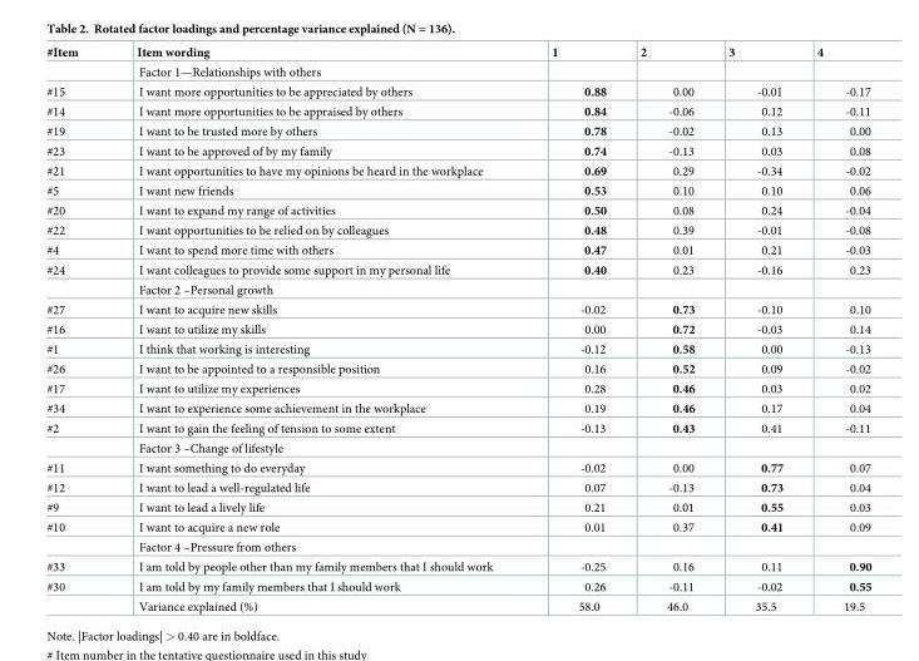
<table><thead><tr><td>#Item</td><td>Item wording</td><td>1</td><td>2</td><td>3</td><td>4</td></tr></thead><tbody><tr><td></td><td>Factor 1—Relationships with others</td><td></td><td></td><td></td><td></td></tr><tr><td>#15</td><td>I want more opportunities to be appreciated by others</td><td>0.88</td><td>0.00</td><td>-0.01</td><td>-0.17</td></tr><tr><td>#14</td><td>I want more opportunities to be appraised by others</td><td>0.84</td><td>-0.06</td><td>0.12</td><td>-0.11</td></tr><tr><td>#19</td><td>I want to be trusted more by others</td><td>0.78</td><td>-0.02</td><td>0.13</td><td>0.00</td></tr><tr><td>#23</td><td>I want to be approved of by my family</td><td>0.74</td><td>-0.13</td><td>0.03</td><td>0.08</td></tr><tr><td>#21</td><td>I want opportunities to have my opinions be heard in the workplace</td><td>0.69</td><td>0.29</td><td>-0.34</td><td>-0.02</td></tr><tr><td>#5</td><td>I want new friends</td><td>0.53</td><td>0.10</td><td>0.10</td><td>0.06</td></tr><tr><td>#20</td><td>I want to expand my range of activities</td><td>0.50</td><td>0.08</td><td>0.24</td><td>-0.04</td></tr><tr><td>#22</td><td>I want opportunities to be relied on by colleagues</td><td>0.48</td><td>0.39</td><td>-0.01</td><td>-0.08</td></tr><tr><td>#4</td><td>I want to spend more time with others</td><td>0.47</td><td>0.01</td><td>0.21</td><td>-0.03</td></tr><tr><td rowspan="2">#24</td><td>I want colleagues to provide some support in my personal life</td><td>0.40</td><td>0.23</td><td>-0.16</td><td>0.23</td></tr><tr><td>Factor 2 –Personal growth</td><td></td><td></td><td></td><td></td></tr><tr><td>#27</td><td>I want to acquire new skills</td><td>-0.02</td><td>0.73</td><td>-0.10</td><td>0.10</td></tr><tr><td>#16</td><td>I want to utilize my skills</td><td>0.00</td><td>0.72</td><td>-0.03</td><td>0.14</td></tr><tr><td>#1</td><td>I think that working is interesting</td><td>-0.12</td><td>0.58</td><td>0.00</td><td>-0.13</td></tr><tr><td>#26</td><td>I want to be appointed to a responsible position</td><td>0.16</td><td>0.52</td><td>0.09</td><td>-0.02</td></tr><tr><td>#17</td><td>I want to utilize my experiences</td><td>0.28</td><td>0.46</td><td>0.03</td><td>0.02</td></tr><tr><td>#34</td><td>I want to experience some achievement in the workplace</td><td>0.19</td><td>0.46</td><td>0.17</td><td>0.04</td></tr><tr><td rowspan="2">#2</td><td>I want to gain the feeling of tension to some extent</td><td>-0.13</td><td>0.43</td><td>0.41</td><td>-0.11</td></tr><tr><td>Factor 3 –Change of lifestyle</td><td></td><td></td><td></td><td></td></tr><tr><td>#11</td><td>I want something to do everyday</td><td>-0.02</td><td>0.00</td><td>0.77</td><td>0.07</td></tr><tr><td>#12</td><td>I want to lead a well-regulated life</td><td>0.07</td><td>-0.13</td><td>0.73</td><td>0.04</td></tr><tr><td>#9</td><td>I want to lead a lively life</td><td>0.21</td><td>0.01</td><td>0.55</td><td>0.03</td></tr><tr><td rowspan="2">#10</td><td>I want to acquire a new role</td><td>0.01</td><td>0.37</td><td>0.41</td><td>0.09</td></tr><tr><td>Factor 4 –Pressure from others</td><td></td><td></td><td></td><td></td></tr><tr><td>#33</td><td>I am told by people other than my family members that I should work</td><td>-0.25</td><td>0.16</td><td>0.11</td><td>0.90</td></tr><tr><td rowspan="2">#30</td><td>I am told by my family members that I should work</td><td>0.26</td><td>-0.11</td><td>-0.02</td><td>0.55</td></tr><tr><td>Variance explained (%)</td><td>58.0</td><td>46.0</td><td>35.5</td><td>19.5</td></tr></tbody></table>